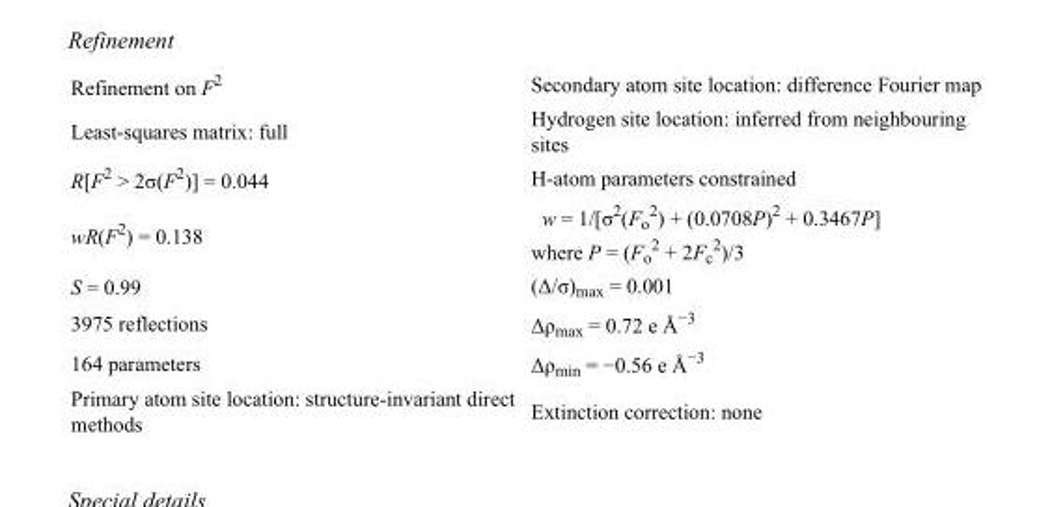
<table><tbody><tr><td>Refinement on F<sup>2</sup></td><td>Secondary atom site location: difference Fourier map</td></tr><tr><td>Least-squares matrix: full</td><td>Hydrogen site location: inferred from neighbouring sites</td></tr><tr><td>R[F<sup>2</sup> &gt; 2σ(F<sup>2</sup>)] = 0.044</td><td>H-atom parameters constrained</td></tr><tr><td>wR(F<sup>2</sup>) = 0.138</td><td>w = 1/[σ<sup>2</sup>(F<sub>o</sub> <sup>2</sup>) + (0.0708P)<sup>2</sup> + 0.3467P] where P = (F<sub>o</sub> <sup>2</sup> + 2F<sub>c</sub> <sup>2</sup>)/3</td></tr><tr><td>S = 0.99</td><td>(Δ/σ)<sub>max</sub> = 0.001</td></tr><tr><td>3975 reflections</td><td>Δρ<sub>max</sub> = 0.72 e Å<sup>−3</sup></td></tr><tr><td>164 parameters</td><td>Δρ<sub>min</sub> = −0.56 e Å<sup>−3</sup></td></tr><tr><td>Primary atom site location: structure-invariant direct methods</td><td>Extinction correction: none</td></tr></tbody></table>